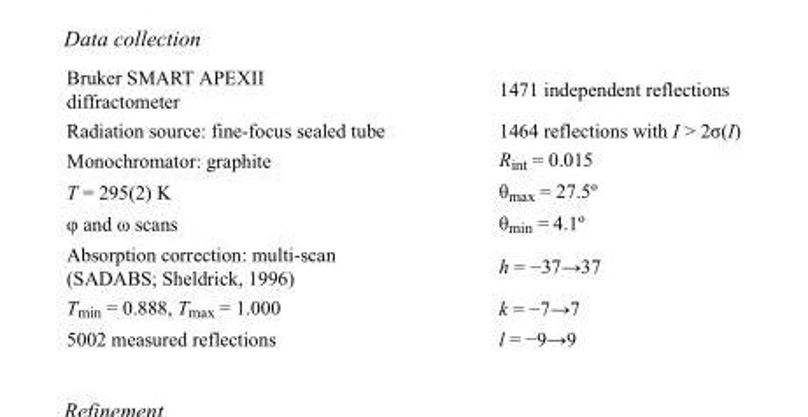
<table><tbody><tr><td>Bruker SMART APEXII diffractometer</td><td>1471 independent reflections</td></tr><tr><td>Radiation source: fine-focus sealed tube</td><td>1464 reflections with I &gt; 2σ(I)</td></tr><tr><td>Monochromator: graphite</td><td>R<sub>int</sub> = 0.015</td></tr><tr><td>T = 295(2) K</td><td>θ<sub>max</sub> = 27.5º</td></tr><tr><td>φ and ω scans</td><td>θ<sub>min</sub> = 4.1º</td></tr><tr><td>Absorption correction: multi-scan (SADABS; Sheldrick, 1996)</td><td>h = −37→37</td></tr><tr><td>T<sub>min</sub> = 0.888, T<sub>max</sub> = 1.000</td><td>k = −7→7</td></tr><tr><td>5002 measured reflections</td><td>l = −9→9</td></tr></tbody></table>